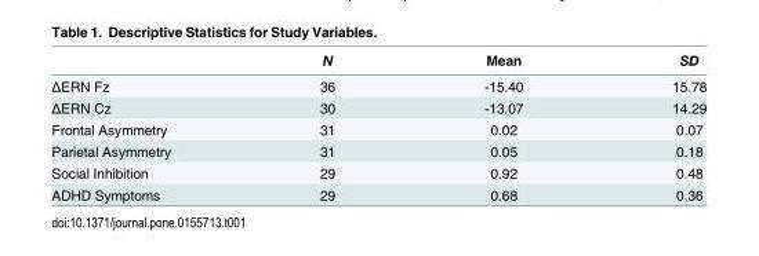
<table><thead><tr><td></td><td>N</td><td>Mean</td><td>SD</td></tr></thead><tbody><tr><td>ΔERN Fz</td><td>36</td><td>-15.40</td><td>15.78</td></tr><tr><td>ΔERN Cz</td><td>30</td><td>-13.07</td><td>14.29</td></tr><tr><td>Frontal Asymmetry</td><td>31</td><td>0.02</td><td>0.07</td></tr><tr><td>Parietal Asymmetry</td><td>31</td><td>0.05</td><td>0.18</td></tr><tr><td>Social Inhibition</td><td>29</td><td>0.92</td><td>0.48</td></tr><tr><td>ADHD Symptoms</td><td>29</td><td>0.68</td><td>0.36</td></tr></tbody></table>